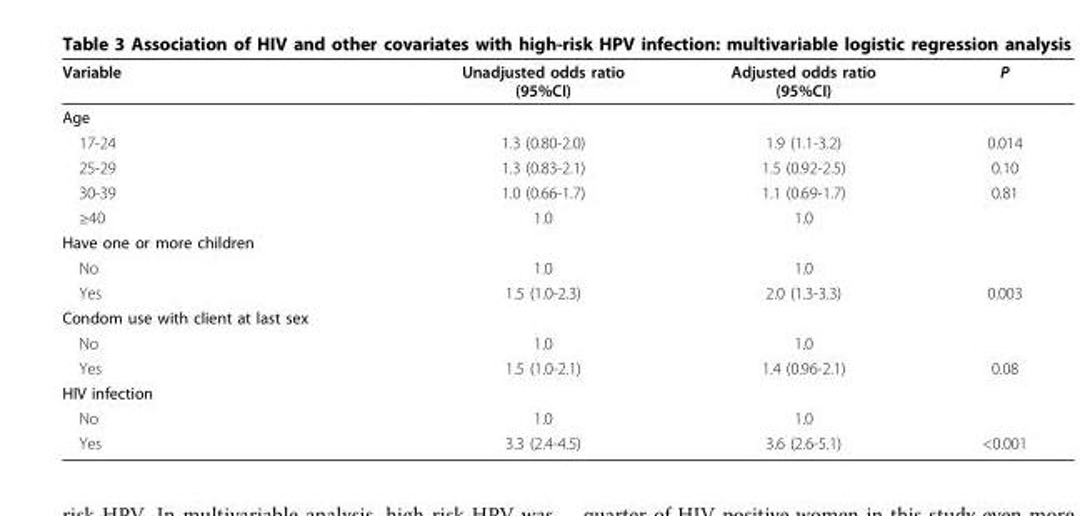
<table><thead><tr><td>Variable</td><td>Unadjusted odds ratio (95%CI)</td><td>Adjusted odds ratio (95%CI)</td><td>P</td></tr></thead><tbody><tr><td colspan="4">Age</td></tr><tr><td>17-24</td><td>1.3 (0.80-2.0)</td><td>1.9 (1.1-3.2)</td><td>0.014</td></tr><tr><td>25-29</td><td>1.3 (0.83-2.1)</td><td>1.5 (0.92-2.5)</td><td>0.10</td></tr><tr><td>30-39</td><td>1.0 (0.66-1.7)</td><td>1.1 (0.69-1.7)</td><td>0.81</td></tr><tr><td>≥40</td><td>1.0</td><td>1.0</td><td></td></tr><tr><td colspan="4">Have one or more children</td></tr><tr><td>No</td><td>1.0</td><td>1.0</td><td></td></tr><tr><td>Yes</td><td>1.5 (1.0-2.3)</td><td>2.0 (1.3-3.3)</td><td>0.003</td></tr><tr><td colspan="4">Condom use with client at last sex</td></tr><tr><td>No</td><td>1.0</td><td>1.0</td><td></td></tr><tr><td>Yes</td><td>1.5 (1.0-2.1)</td><td>1.4 (0.96-2.1)</td><td>0.08</td></tr><tr><td colspan="4">HIV infection</td></tr><tr><td>No</td><td>1.0</td><td>1.0</td><td></td></tr><tr><td>Yes</td><td>3.3 (2.4-4.5)</td><td>3.6 (2.6-5.1)</td><td>&lt;0.001</td></tr></tbody></table>